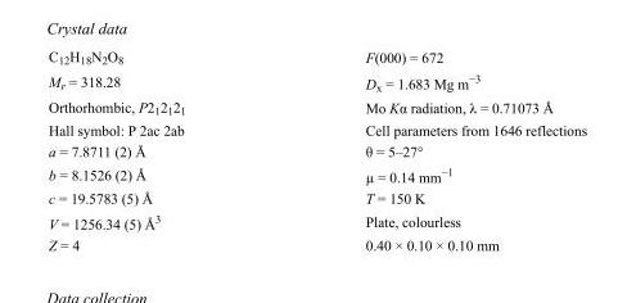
<table><tbody><tr><td>C<sub>12</sub>H<sub>18</sub>N<sub>2</sub>O<sub>8</sub></td><td>F(000) = 672</td></tr><tr><td>M<sub>r</sub> = 318.28</td><td>D<sub>x</sub> = 1.683 Mg m<sup>−3</sup></td></tr><tr><td>Orthorhombic, P2<sub>1</sub>2<sub>1</sub>2<sub>1</sub></td><td>Mo Kα radiation, λ = 0.71073 Å</td></tr><tr><td>Hall symbol: P 2ac 2ab</td><td>Cell parameters from 1646 reflections</td></tr><tr><td>a = 7.8711 (2) Å</td><td>θ = 5–27°</td></tr><tr><td>b = 8.1526 (2) Å</td><td>µ = 0.14 mm<sup>−1</sup></td></tr><tr><td>c = 19.5783 (5) Å</td><td>T = 150 K</td></tr><tr><td>V = 1256.34 (5) Å<sup>3</sup></td><td>Plate, colourless</td></tr><tr><td>Z = 4</td><td>0.40 × 0.10 × 0.10 mm</td></tr></tbody></table>